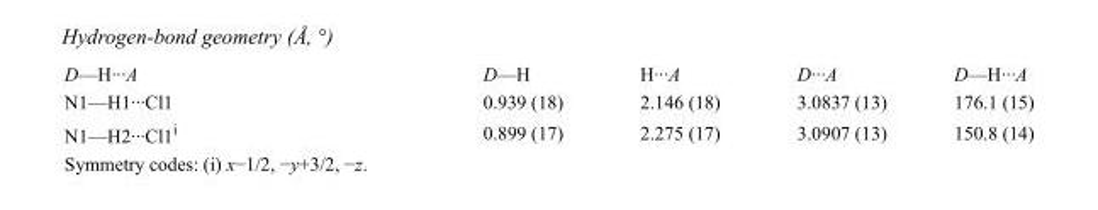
<table><tbody><tr><td>D—H···A</td><td>D—H</td><td>H···A</td><td>D···A</td><td>D—H···A</td></tr><tr><td>N1—H1···Cl1</td><td>0.939 (18)</td><td>2.146 (18)</td><td>3.0837 (13)</td><td>176.1 (15)</td></tr><tr><td>N1—H2···Cl1<sup>i</sup></td><td>0.899 (17)</td><td>2.275 (17)</td><td>3.0907 (13)</td><td>150.8 (14)</td></tr></tbody></table>